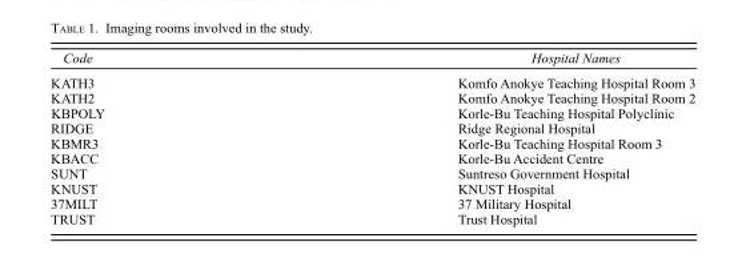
<table><thead><tr><td>Code</td><td>Hospital Names</td></tr></thead><tbody><tr><td>KATH3</td><td>Komfo Anokye Teaching Hospital Room 3</td></tr><tr><td>KATH2</td><td>Komfo Anokye Teaching Hospital Room 2</td></tr><tr><td>KBPOLY</td><td>Korle-Bu Teaching Hospital Polyclinic</td></tr><tr><td>RIDGE</td><td>Ridge Regional Hospital</td></tr><tr><td>KBMR3</td><td>Korle-Bu Teaching Hospital Room 3</td></tr><tr><td>KBACC</td><td>Korle-Bu Accident Centre</td></tr><tr><td>SUNT</td><td>Suntreso Government Hospital</td></tr><tr><td>KNUST</td><td>KNUST Hospital</td></tr><tr><td>37MILT</td><td>37 Military Hospital</td></tr><tr><td>TRUST</td><td>Trust Hospital</td></tr></tbody></table>